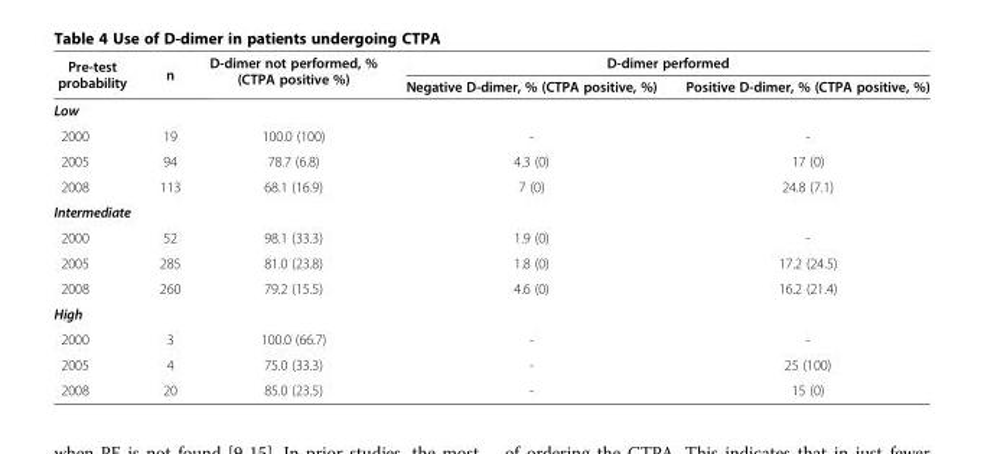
<table><thead><tr><td rowspan="2">Pre-test probability</td><td rowspan="2">n</td><td rowspan="2">D-dimer not performed, % (CTPA positive %)</td><td colspan="2">D-dimer performed</td></tr><tr><td>Negative D-dimer, % (CTPA positive, %)</td><td>Positive D-dimer, % (CTPA positive, %)</td></tr></thead><tbody><tr><td colspan="5">Low</td></tr><tr><td>2000</td><td>19</td><td>100.0 (100)</td><td>-</td><td>-</td></tr><tr><td>2005</td><td>94</td><td>78.7 (6.8)</td><td>4.3 (0)</td><td>17 (0)</td></tr><tr><td>2008</td><td>113</td><td>68.1 (16.9)</td><td>7 (0)</td><td>24.8 (7.1)</td></tr><tr><td colspan="5">Intermediate</td></tr><tr><td>2000</td><td>52</td><td>98.1 (33.3)</td><td>1.9 (0)</td><td>-</td></tr><tr><td>2005</td><td>285</td><td>81.0 (23.8)</td><td>1.8 (0)</td><td>17.2 (24.5)</td></tr><tr><td>2008</td><td>260</td><td>79.2 (15.5)</td><td>4.6 (0)</td><td>16.2 (21.4)</td></tr><tr><td colspan="5">High</td></tr><tr><td>2000</td><td>3</td><td>100.0 (66.7)</td><td>-</td><td>-</td></tr><tr><td>2005</td><td>4</td><td>75.0 (33.3)</td><td>-</td><td>25 (100)</td></tr><tr><td>2008</td><td>20</td><td>85.0 (23.5)</td><td>-</td><td>15 (0)</td></tr></tbody></table>